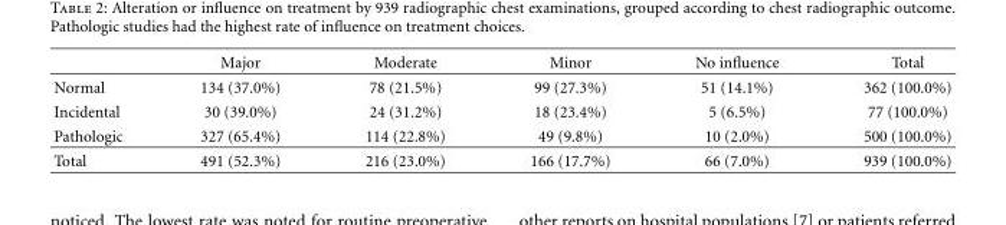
<table><thead><tr><td></td><td>Major</td><td>Moderate</td><td>Minor</td><td>No influence</td><td>Total</td></tr></thead><tbody><tr><td>Normal</td><td>134 (37.0%)</td><td>78 (21.5%)</td><td>99 (27.3%)</td><td>51 (14.1%)</td><td>362 (100.0%)</td></tr><tr><td>Incidental</td><td>30 (39.0%)</td><td>24 (31.2%)</td><td>18 (23.4%)</td><td>5 (6.5%)</td><td>77 (100.0%)</td></tr><tr><td>Pathologic</td><td>327 (65.4%)</td><td>114 (22.8%)</td><td>49 (9.8%)</td><td>10 (2.0%)</td><td>500 (100.0%)</td></tr><tr><td>Total</td><td>491 (52.3%)</td><td>216 (23.0%)</td><td>166 (17.7%)</td><td>66 (7.0%)</td><td>939 (100.0%)</td></tr></tbody></table>